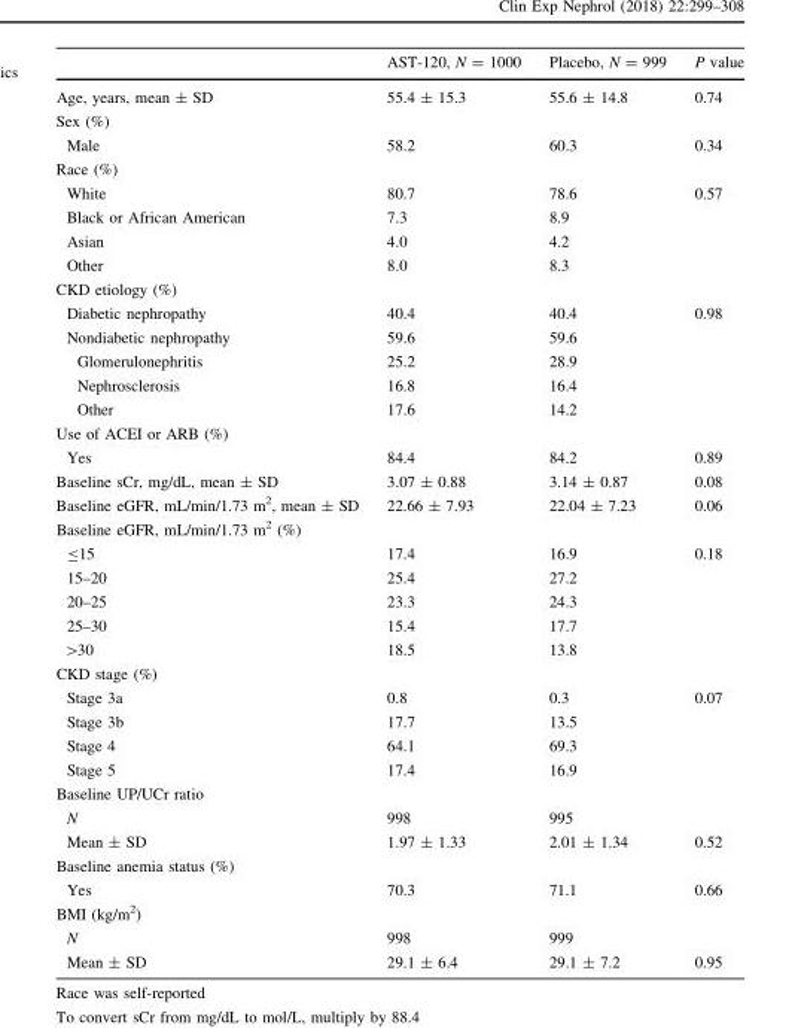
<table><thead><tr><td></td><td>AST-120, N = 1000</td><td>Placebo, N = 999</td><td>P value</td></tr></thead><tbody><tr><td>Age, years, mean ± SD</td><td>55.4 ± 15.3</td><td>55.6 ± 14.8</td><td>0.74</td></tr><tr><td colspan="4">Sex (%)</td></tr><tr><td>Male</td><td>58.2</td><td>60.3</td><td>0.34</td></tr><tr><td colspan="4">Race (%)</td></tr><tr><td>White</td><td>80.7</td><td>78.6</td><td>0.57</td></tr><tr><td>Black or African American</td><td>7.3</td><td>8.9</td><td></td></tr><tr><td>Asian</td><td>4.0</td><td>4.2</td><td></td></tr><tr><td>Other</td><td>8.0</td><td>8.3</td><td></td></tr><tr><td colspan="4">CKD etiology (%)</td></tr><tr><td>Diabetic nephropathy</td><td>40.4</td><td>40.4</td><td>0.98</td></tr><tr><td>Nondiabetic nephropathy</td><td>59.6</td><td>59.6</td><td></td></tr><tr><td>Glomerulonephritis</td><td>25.2</td><td>28.9</td><td></td></tr><tr><td>Nephrosclerosis</td><td>16.8</td><td>16.4</td><td></td></tr><tr><td>Other</td><td>17.6</td><td>14.2</td><td></td></tr><tr><td colspan="4">Use of ACEI or ARB (%)</td></tr><tr><td>Yes</td><td>84.4</td><td>84.2</td><td>0.89</td></tr><tr><td>Baseline sCr, mg/dL, mean ± SD</td><td>3.07 ± 0.88</td><td>3.14 ± 0.87</td><td>0.08</td></tr><tr><td>Baseline eGFR, mL/min/1.73 m<sup>2</sup>, mean ± SD</td><td>22.66 ± 7.93</td><td>22.04 ± 7.23</td><td>0.06</td></tr><tr><td colspan="4">Baseline eGFR, mL/min/1.73 m<sup>2</sup> (%)</td></tr><tr><td>≤15</td><td>17.4</td><td>16.9</td><td>0.18</td></tr><tr><td>15–20</td><td>25.4</td><td>27.2</td><td></td></tr><tr><td>20–25</td><td>23.3</td><td>24.3</td><td></td></tr><tr><td>25–30</td><td>15.4</td><td>17.7</td><td></td></tr><tr><td>&gt;30</td><td>18.5</td><td>13.8</td><td></td></tr><tr><td colspan="4">CKD stage (%)</td></tr><tr><td>Stage 3a</td><td>0.8</td><td>0.3</td><td>0.07</td></tr><tr><td>Stage 3b</td><td>17.7</td><td>13.5</td><td></td></tr><tr><td>Stage 4</td><td>64.1</td><td>69.3</td><td></td></tr><tr><td>Stage 5</td><td>17.4</td><td>16.9</td><td></td></tr><tr><td colspan="4">Baseline UP/UCr ratio</td></tr><tr><td>N</td><td>998</td><td>995</td><td></td></tr><tr><td>Mean ± SD</td><td>1.97 ± 1.33</td><td>2.01 ± 1.34</td><td>0.52</td></tr><tr><td colspan="4">Baseline anemia status (%)</td></tr><tr><td>Yes</td><td>70.3</td><td>71.1</td><td>0.66</td></tr><tr><td colspan="4">BMI (kg/m<sup>2</sup>)</td></tr><tr><td>N</td><td>998</td><td>999</td><td></td></tr><tr><td>Mean ± SD</td><td>29.1 ± 6.4</td><td>29.1 ± 7.2</td><td>0.95</td></tr></tbody></table>